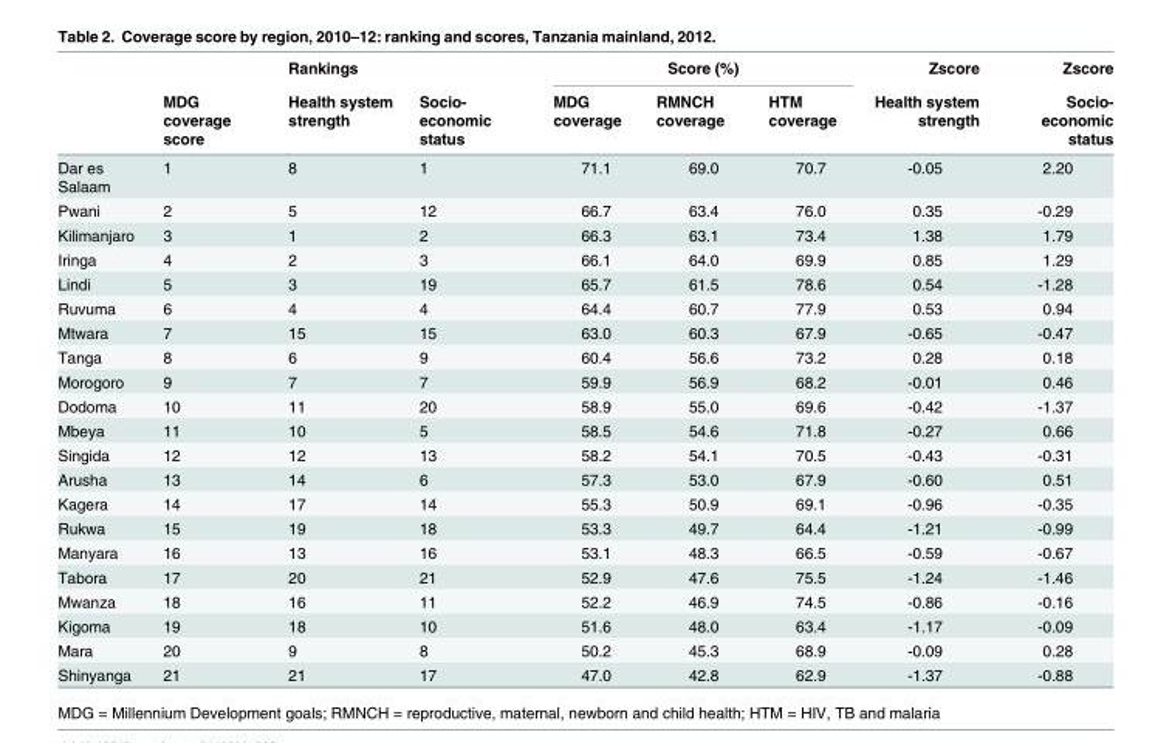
<table><thead><tr><td rowspan="2"></td><td rowspan="2">MDG coverage score</td><td rowspan="2">Rankings Health system strength</td><td rowspan="2">Socio- economic status</td><td colspan="3">Score (%)</td><td rowspan="2">Zscore Health system strength</td><td rowspan="2">Zscore Socio- economic status</td></tr><tr><td>MDG coverage</td><td>RMNCH coverage</td><td>HTM coverage</td></tr></thead><tbody><tr><td>Dar es Salaam</td><td>1</td><td>8</td><td>1</td><td>71.1</td><td>69.0</td><td>70.7</td><td>-0.05</td><td>2.20</td></tr><tr><td>Pwani</td><td>2</td><td>5</td><td>12</td><td>66.7</td><td>63.4</td><td>76.0</td><td>0.35</td><td>-0.29</td></tr><tr><td>Kilimanjaro</td><td>3</td><td>1</td><td>2</td><td>66.3</td><td>63.1</td><td>73.4</td><td>1.38</td><td>1.79</td></tr><tr><td>Iringa</td><td>4</td><td>2</td><td>3</td><td>66.1</td><td>64.0</td><td>69.9</td><td>0.85</td><td>1.29</td></tr><tr><td>Lindi</td><td>5</td><td>3</td><td>19</td><td>65.7</td><td>61.5</td><td>78.6</td><td>0.54</td><td>-1.28</td></tr><tr><td>Ruvuma</td><td>6</td><td>4</td><td>4</td><td>64.4</td><td>60.7</td><td>77.9</td><td>0.53</td><td>0.94</td></tr><tr><td>Mtwara</td><td>7</td><td>15</td><td>15</td><td>63.0</td><td>60.3</td><td>67.9</td><td>-0.65</td><td>-0.47</td></tr><tr><td>Tanga</td><td>8</td><td>6</td><td>9</td><td>60.4</td><td>56.6</td><td>73.2</td><td>0.28</td><td>0.18</td></tr><tr><td>Morogoro</td><td>9</td><td>7</td><td>7</td><td>59.9</td><td>56.9</td><td>68.2</td><td>-0.01</td><td>0.46</td></tr><tr><td>Dodoma</td><td>10</td><td>11</td><td>20</td><td>58.9</td><td>55.0</td><td>69.6</td><td>-0.42</td><td>-1.37</td></tr><tr><td>Mbeya</td><td>11</td><td>10</td><td>5</td><td>58.5</td><td>54.6</td><td>71.8</td><td>-0.27</td><td>0.66</td></tr><tr><td>Singida</td><td>12</td><td>12</td><td>13</td><td>58.2</td><td>54.1</td><td>70.5</td><td>-0.43</td><td>-0.31</td></tr><tr><td>Arusha</td><td>13</td><td>14</td><td>6</td><td>57.3</td><td>53.0</td><td>67.9</td><td>-0.60</td><td>0.51</td></tr><tr><td>Kagera</td><td>14</td><td>17</td><td>14</td><td>55.3</td><td>50.9</td><td>69.1</td><td>-0.96</td><td>-0.35</td></tr><tr><td>Rukwa</td><td>15</td><td>19</td><td>18</td><td>53.3</td><td>49.7</td><td>64.4</td><td>-1.21</td><td>-0.99</td></tr><tr><td>Manyara</td><td>16</td><td>13</td><td>16</td><td>53.1</td><td>48.3</td><td>66.5</td><td>-0.59</td><td>-0.67</td></tr><tr><td>Tabora</td><td>17</td><td>20</td><td>21</td><td>52.9</td><td>47.6</td><td>75.5</td><td>-1.24</td><td>-1.46</td></tr><tr><td>Mwanza</td><td>18</td><td>16</td><td>11</td><td>52.2</td><td>46.9</td><td>74.5</td><td>-0.86</td><td>-0.16</td></tr><tr><td>Kigoma</td><td>19</td><td>18</td><td>10</td><td>51.6</td><td>48.0</td><td>63.4</td><td>-1.17</td><td>-0.09</td></tr><tr><td>Mara</td><td>20</td><td>9</td><td>8</td><td>50.2</td><td>45.3</td><td>68.9</td><td>-0.09</td><td>0.28</td></tr><tr><td>Shinyanga</td><td>21</td><td>21</td><td>17</td><td>47.0</td><td>42.8</td><td>62.9</td><td>-1.37</td><td>-0.88</td></tr></tbody></table>